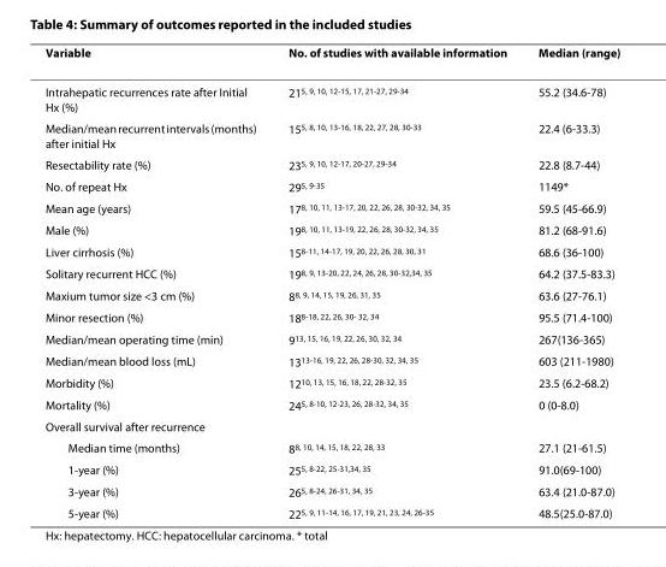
<table><thead><tr><td>Variable</td><td>No. of studies with available information</td><td>Median (range)</td></tr></thead><tbody><tr><td>Intrahepatic recurrences rate after Initial Hx (%)</td><td>21<sup>5, 9, 10, 12-15, 17, 21-27, 29-34</sup></td><td>55.2 (34.6-78)</td></tr><tr><td>Median/mean recurrent intervals (months) after initial Hx</td><td>15<sup>5, 8, 10, 13-16, 18, 22, 27, 28, 30-33</sup></td><td>22.4 (6-33.3)</td></tr><tr><td>Resectability rate (%)</td><td>23<sup>5, 9, 10, 12-17, 20-27, 29-34</sup></td><td>22.8 (8.7-44)</td></tr><tr><td>No. of repeat Hx</td><td>29<sup>5, 9-35</sup></td><td>1149*</td></tr><tr><td>Mean age (years)</td><td>17<sup>8, 10, 11, 13-17, 20, 22, 26, 28, 30-32, 34, 35</sup></td><td>59.5 (45-66.9)</td></tr><tr><td>Male (%)</td><td>19<sup>8, 10, 11, 13-19, 22, 26, 28, 30-32, 34, 35</sup></td><td>81.2 (68-91.6)</td></tr><tr><td>Liver cirrhosis (%)</td><td>15<sup>8-11, 14-17, 19, 20, 22, 26, 28, 30, 31</sup></td><td>68.6 (36-100)</td></tr><tr><td>Solitary recurrent HCC (%)</td><td>19<sup>8, 9, 13-20, 22, 24, 26, 28, 30-32,34, 35</sup></td><td>64.2 (37.5-83.3)</td></tr><tr><td>Maxium tumor size &lt;3 cm (%)</td><td>8<sup>8, 9, 14, 15, 19, 26, 31, 35</sup></td><td>63.6 (27-76.1)</td></tr><tr><td>Minor resection (%)</td><td>18<sup>8-18, 22, 26, 30- 32, 34</sup></td><td>95.5 (71.4-100)</td></tr><tr><td>Median/mean operating time (min)</td><td>9<sup>13, 15, 16, 19, 22, 26, 30, 32, 34</sup></td><td>267(136-365)</td></tr><tr><td>Median/mean blood loss (mL)</td><td>13<sup>13-16, 19, 22, 26, 28-30, 32, 34, 35</sup></td><td>603 (211-1980)</td></tr><tr><td>Morbidity (%)</td><td>12<sup>10, 13, 15, 16, 18, 22, 28-32, 35</sup></td><td>23.5 (6.2-68.2)</td></tr><tr><td>Mortality (%)</td><td>24<sup>5, 8-10, 12-23, 26, 28-32, 34, 35</sup></td><td>0 (0-8.0)</td></tr><tr><td colspan="3">Overall survival after recurrence</td></tr><tr><td>Median time (months)</td><td>8<sup>8, 10, 14, 15, 18, 22, 28, 33</sup></td><td>27.1 (21-61.5)</td></tr><tr><td>1-year (%)</td><td>25<sup>5, 8-22, 25-31,34, 35</sup></td><td>91.0(69-100)</td></tr><tr><td>3-year (%)</td><td>26<sup>5, 8-24, 26-31, 34, 35</sup></td><td>63.4 (21.0-87.0)</td></tr><tr><td>5-year (%)</td><td>22<sup>5, 9, 11-14, 16, 17, 19, 21, 23, 24, 26-35</sup></td><td>48.5(25.0-87.0)</td></tr></tbody></table>